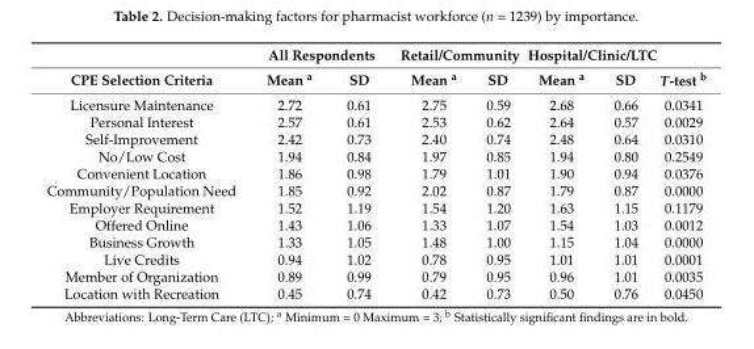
<table><thead><tr><td rowspan="2">CPE Selection Criteria</td><td colspan="2">All Respondents</td><td colspan="2">Retail/Community</td><td colspan="2">Hospital/Clinic/LTC</td><td rowspan="2">T-test <sup>b</sup></td></tr><tr><td>Mean <sup>a</sup></td><td>SD</td><td>Mean <sup>a</sup></td><td>SD</td><td>Mean <sup>a</sup></td><td>SD</td></tr></thead><tbody><tr><td>Licensure Maintenance</td><td>2.72</td><td>0.61</td><td>2.75</td><td>0.59</td><td>2.68</td><td>0.66</td><td>0.0341</td></tr><tr><td>Personal Interest</td><td>2.57</td><td>0.61</td><td>2.53</td><td>0.62</td><td>2.64</td><td>0.57</td><td>0.0029</td></tr><tr><td>Self-Improvement</td><td>2.42</td><td>0.73</td><td>2.40</td><td>0.74</td><td>2.48</td><td>0.64</td><td>0.0310</td></tr><tr><td>No/Low Cost</td><td>1.94</td><td>0.84</td><td>1.97</td><td>0.85</td><td>1.94</td><td>0.80</td><td>0.2549</td></tr><tr><td>Convenient Location</td><td>1.86</td><td>0.98</td><td>1.79</td><td>1.01</td><td>1.90</td><td>0.94</td><td>0.0376</td></tr><tr><td>Community/Population Need</td><td>1.85</td><td>0.92</td><td>2.02</td><td>0.87</td><td>1.79</td><td>0.87</td><td>0.0000</td></tr><tr><td>Employer Requirement</td><td>1.52</td><td>1.19</td><td>1.54</td><td>1.20</td><td>1.63</td><td>1.15</td><td>0.1179</td></tr><tr><td>Offered Online</td><td>1.43</td><td>1.06</td><td>1.33</td><td>1.07</td><td>1.54</td><td>1.03</td><td>0.0012</td></tr><tr><td>Business Growth</td><td>1.33</td><td>1.05</td><td>1.48</td><td>1.00</td><td>1.15</td><td>1.04</td><td>0.0000</td></tr><tr><td>Live Credits</td><td>0.94</td><td>1.02</td><td>0.78</td><td>0.95</td><td>1.01</td><td>1.01</td><td>0.0001</td></tr><tr><td>Member of Organization</td><td>0.89</td><td>0.99</td><td>0.79</td><td>0.95</td><td>0.96</td><td>1.01</td><td>0.0035</td></tr><tr><td>Location with Recreation</td><td>0.45</td><td>0.74</td><td>0.42</td><td>0.73</td><td>0.50</td><td>0.76</td><td>0.0450</td></tr></tbody></table>